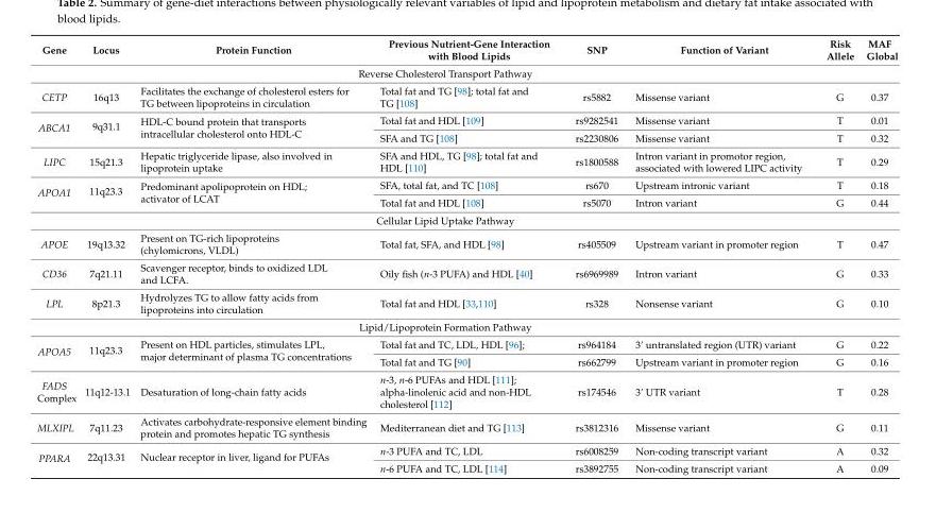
<table><thead><tr><td>Gene</td><td>Locus</td><td>Protein Function</td><td>Previous Nutrient-Gene Interaction with Blood Lipids</td><td>SNP</td><td>Function of Variant</td><td>Risk Allele</td><td>MAF Global</td></tr></thead><tbody><tr><td colspan="8">Reverse Cholesterol Transport Pathway</td></tr><tr><td>CETP</td><td>16q13</td><td>Facilitates the exchange of cholesterol esters for TG between lipoproteins in circulation</td><td>Total fat and TG [98]; total fat and TG [108]</td><td>rs5882</td><td>Missense variant</td><td>G</td><td>0.37</td></tr><tr><td rowspan="2">ABCA1</td><td rowspan="2">9q31.1</td><td rowspan="2">HDL-C bound protein that transports intracellular cholesterol onto HDL-C</td><td>Total fat and HDL [109]</td><td>rs9282541</td><td>Missense variant</td><td>T</td><td>0.01</td></tr><tr><td>SFA and TG [108]</td><td>rs2230806</td><td>Missense variant</td><td>T</td><td>0.32</td></tr><tr><td>LIPC</td><td>15q21.3</td><td>Hepatic triglyceride lipase, also involved in lipoprotein uptake</td><td>SFA and HDL, TG [98]; total fat and HDL [110]</td><td>rs1800588</td><td>Intron variant in promotor region, associated with lowered LIPC activity</td><td>T</td><td>0.29</td></tr><tr><td rowspan="2">APOA1</td><td rowspan="2">11q23.3</td><td rowspan="2">Predominant apolipoprotein on HDL; activator of LCAT</td><td>SFA, total fat, and TC [108]</td><td>rs670</td><td>Upstream intronic variant</td><td>T</td><td>0.18</td></tr><tr><td>Total fat and HDL [108]</td><td>rs5070</td><td>Intron variant</td><td>G</td><td>0.44</td></tr><tr><td colspan="8">Cellular Lipid Uptake Pathway</td></tr><tr><td>APOE</td><td>19q13.32</td><td>Present on TG-rich lipoproteins (chylomicrons, VLDL)</td><td>Total fat, SFA, and HDL [98]</td><td>rs405509</td><td>Upstream variant in promoter region</td><td>T</td><td>0.47</td></tr><tr><td>CD36</td><td>7q21.11</td><td>Scavenger receptor, binds to oxidized LDL and LCFA.</td><td>Oily fish (n-3 PUFA) and HDL [40]</td><td>rs6969989</td><td>Intron variant</td><td>G</td><td>0.33</td></tr><tr><td>LPL</td><td>8p21.3</td><td>Hydrolyzes TG to allow fatty acids from lipoproteins into circulation</td><td>Total fat and HDL [33,110]</td><td>rs328</td><td>Nonsense variant</td><td>G</td><td>0.10</td></tr><tr><td colspan="8">Lipid/Lipoprotein Formation Pathway</td></tr><tr><td rowspan="2">APOA5</td><td rowspan="2">11q23.3</td><td rowspan="2">Present on HDL particles, stimulates LPL, major determinant of plasma TG concentrations</td><td>Total fat and TC, LDL, HDL [96];</td><td>rs964184</td><td>3’ untranslated region (UTR) variant</td><td>G</td><td>0.22</td></tr><tr><td>Total fat and TG [90]</td><td>rs662799</td><td>Upstream variant in promoter region</td><td>G</td><td>0.16</td></tr><tr><td>FADS Complex</td><td>11q12-13.1</td><td>Desaturation of long-chain fatty acids</td><td>n-3, n-6 PUFAs and HDL [111]; alpha-linolenic acid and non-HDL cholesterol [112]</td><td>rs174546</td><td>3’ UTR variant</td><td>T</td><td>0.28</td></tr><tr><td>MLXIPL</td><td>7q11.23</td><td>Activates carbohydrate-responsive element binding protein and promotes hepatic TG synthesis</td><td>Mediterranean diet and TG [113]</td><td>rs3812316</td><td>Missense variant</td><td>G</td><td>0.11</td></tr><tr><td rowspan="2">PPARA</td><td rowspan="2">22q13.31</td><td rowspan="2">Nuclear receptor in liver, ligand for PUFAs</td><td>n-3 PUFA and TC, LDL</td><td>rs6008259</td><td>Non-coding transcript variant</td><td>A</td><td>0.32</td></tr><tr><td>n-6 PUFA and TC, LDL [114]</td><td>rs3892755</td><td>Non-coding transcript variant</td><td>A</td><td>0.09</td></tr></tbody></table>